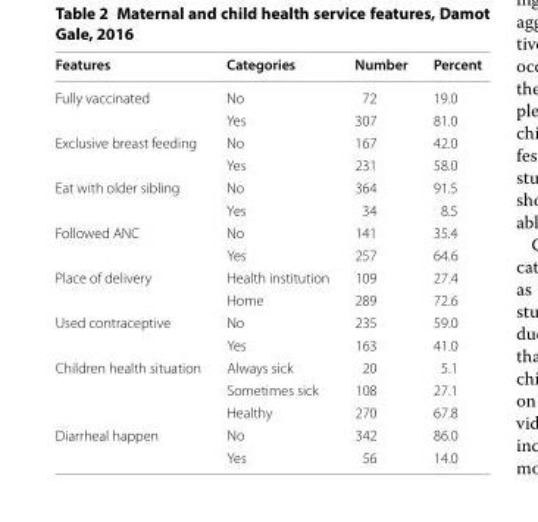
<table><thead><tr><td>Features</td><td>Categories</td><td>Number</td><td>Percent</td></tr></thead><tbody><tr><td rowspan="2">Fully vaccinated</td><td>No</td><td>72</td><td>19.0</td></tr><tr><td>Yes</td><td>307</td><td>81.0</td></tr><tr><td rowspan="2">Exclusive breast feeding</td><td>No</td><td>167</td><td>42.0</td></tr><tr><td>Yes</td><td>231</td><td>58.0</td></tr><tr><td rowspan="2">Eat with older sibling</td><td>No</td><td>364</td><td>91.5</td></tr><tr><td>Yes</td><td>34</td><td>8.5</td></tr><tr><td rowspan="2">Followed ANC</td><td>No</td><td>141</td><td>35.4</td></tr><tr><td>Yes</td><td>257</td><td>64.6</td></tr><tr><td rowspan="2">Place of delivery</td><td>Health institution</td><td>109</td><td>27.4</td></tr><tr><td>Home</td><td>289</td><td>72.6</td></tr><tr><td rowspan="2">Used contraceptive</td><td>No</td><td>235</td><td>59.0</td></tr><tr><td>Yes</td><td>163</td><td>41.0</td></tr><tr><td rowspan="3">Children health situation</td><td>Always sick</td><td>20</td><td>5.1</td></tr><tr><td>Sometimes sick</td><td>108</td><td>27.1</td></tr><tr><td>Healthy</td><td>270</td><td>67.8</td></tr><tr><td rowspan="2">Diarrheal happen</td><td>No</td><td>342</td><td>86.0</td></tr><tr><td>Yes</td><td>56</td><td>14.0</td></tr></tbody></table>